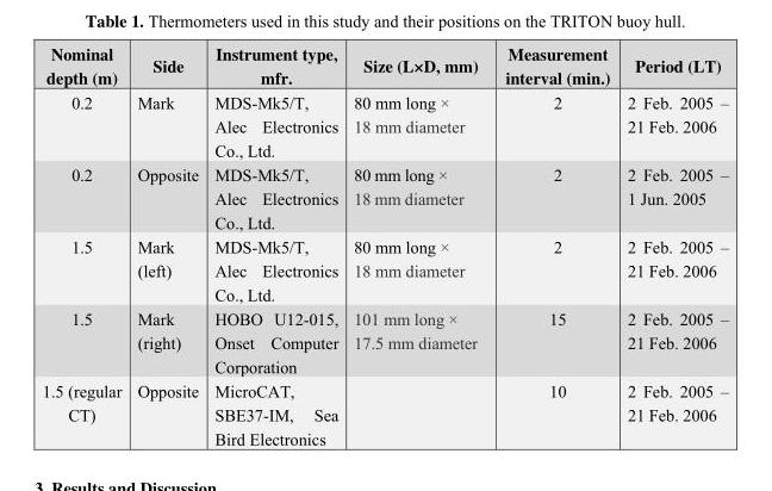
<table><thead><tr><td>Nominal depth (m)</td><td>Side</td><td>Instrument type, mfr.</td><td>Size (L×D, mm)</td><td>Measurement interval (min.)</td><td>Period (LT)</td></tr></thead><tbody><tr><td>0.2</td><td>Mark</td><td>MDS-Mk5/T, Alec Electronics Co., Ltd.</td><td>80 mm long × 18 mm diameter</td><td>2</td><td>2 Feb. 2005 – 21 Feb. 2006</td></tr><tr><td>0.2</td><td>Opposite</td><td>MDS-Mk5/T, Alec Electronics Co., Ltd.</td><td>80 mm long × 18 mm diameter</td><td>2</td><td>2 Feb. 2005 – 1 Jun. 2005</td></tr><tr><td>1.5</td><td>Mark (left)</td><td>MDS-Mk5/T, Alec Electronics Co., Ltd.</td><td>80 mm long × 18 mm diameter</td><td>2</td><td>2 Feb. 2005 – 21 Feb. 2006</td></tr><tr><td>1.5</td><td>Mark (right)</td><td>HOBO U12-015, Onset Computer Corporation</td><td>101 mm long × 17.5 mm diameter</td><td>15</td><td>2 Feb. 2005 – 21 Feb. 2006</td></tr><tr><td>1.5 (regular CT)</td><td>Opposite</td><td>MicroCAT, SBE37-IM, Sea Bird Electronics</td><td></td><td>10</td><td>2 Feb. 2005 – 21 Feb. 2006</td></tr></tbody></table>